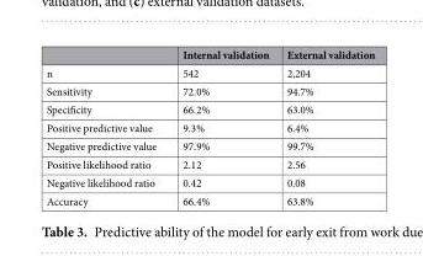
<table><thead><tr><td></td><td>Internal validation</td><td>External validation</td></tr></thead><tbody><tr><td>n</td><td>542</td><td>2,204</td></tr><tr><td>Sensitivity</td><td>72.0%</td><td>94.7%</td></tr><tr><td>Specificity</td><td>66.2%</td><td>63.0%</td></tr><tr><td>Positive predictive value</td><td>9.3%</td><td>6.4%</td></tr><tr><td>Negative predictive value</td><td>97.9%</td><td>99.7%</td></tr><tr><td>Positive likelihood ratio</td><td>2.12</td><td>2.56</td></tr><tr><td>Negative likelihood ratio</td><td>0.42</td><td>0.08</td></tr><tr><td>Accuracy</td><td>66.4%</td><td>63.8%</td></tr></tbody></table>